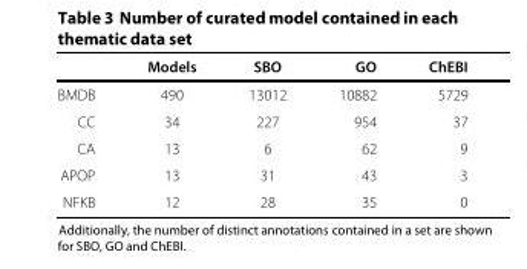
<table><thead><tr><td></td><td>Models</td><td>SBO</td><td>GO</td><td>ChEBI</td></tr></thead><tbody><tr><td>BMDB</td><td>490</td><td>13012</td><td>10882</td><td>5729</td></tr><tr><td>CC</td><td>34</td><td>227</td><td>954</td><td>37</td></tr><tr><td>CA</td><td>13</td><td>6</td><td>62</td><td>9</td></tr><tr><td>APOP</td><td>13</td><td>31</td><td>43</td><td>3</td></tr><tr><td>NFKB</td><td>12</td><td>28</td><td>35</td><td>0</td></tr></tbody></table>